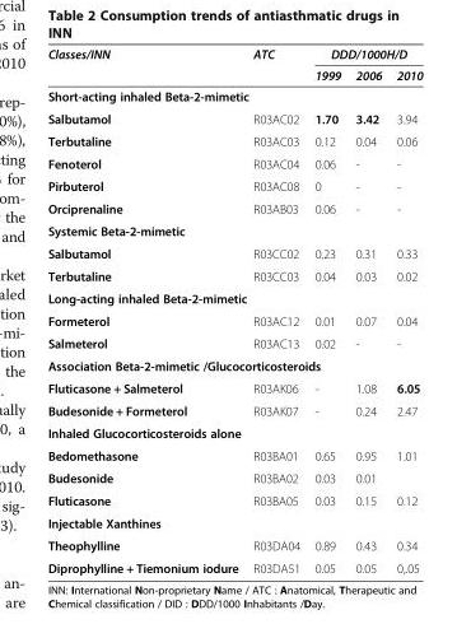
<table><thead><tr><td rowspan="2">Classes/INN</td><td rowspan="2">ATC</td><td colspan="3">DDD/1000H/D</td></tr><tr><td>1999</td><td>2006</td><td>2010</td></tr></thead><tbody><tr><td colspan="5">Short-acting inhaled Beta-2-mimetic</td></tr><tr><td>Salbutamol</td><td>R03AC02</td><td>1.70</td><td>3.42</td><td>3.94</td></tr><tr><td>Terbutaline</td><td>R03AC03</td><td>0.12</td><td>0.04</td><td>0.06</td></tr><tr><td>Fenoterol</td><td>R03AC04</td><td>0.06</td><td>-</td><td>-</td></tr><tr><td>Pirbuterol</td><td>R03AC08</td><td>0</td><td>-</td><td>-</td></tr><tr><td>Orciprenaline</td><td>R03AB03</td><td>0.06</td><td>-</td><td>-</td></tr><tr><td colspan="5">Systemic Beta-2-mimetic</td></tr><tr><td>Salbutamol</td><td>R03CC02</td><td>0.23</td><td>0.31</td><td>0.33</td></tr><tr><td>Terbutaline</td><td>R03CC03</td><td>0.04</td><td>0.03</td><td>0.02</td></tr><tr><td colspan="5">Long-acting inhaled Beta-2-mimetic</td></tr><tr><td>Formeterol</td><td>R03AC12</td><td>0.01</td><td>0.07</td><td>0.04</td></tr><tr><td>Salmeterol</td><td>R03AC13</td><td>0.02</td><td>-</td><td>-</td></tr><tr><td colspan="5">Association Beta-2-mimetic /Glucocorticosteroids</td></tr><tr><td>Fluticasone + Salmeterol</td><td>R03AK06</td><td>-</td><td>1.08</td><td>6.05</td></tr><tr><td>Budesonide + Formeterol</td><td>R03AK07</td><td>-</td><td>0.24</td><td>2.47</td></tr><tr><td colspan="5">Inhaled Glucocorticosteroids alone</td></tr><tr><td>Bedomethasone</td><td>R03BA01</td><td>0.65</td><td>0.95</td><td>1.01</td></tr><tr><td>Budesonide</td><td>R03BA02</td><td>0.03</td><td>0.01</td><td></td></tr><tr><td>Fluticasone</td><td>R03BA05</td><td>0.03</td><td>0.15</td><td>0.12</td></tr><tr><td colspan="5">Injectable Xanthines</td></tr><tr><td>Theophylline</td><td>R03DA04</td><td>0.89</td><td>0.43</td><td>0.34</td></tr><tr><td>Diprophylline + Tiemonium iodure</td><td>R03DA51</td><td>0.05</td><td>0.05</td><td>0,.05</td></tr></tbody></table>